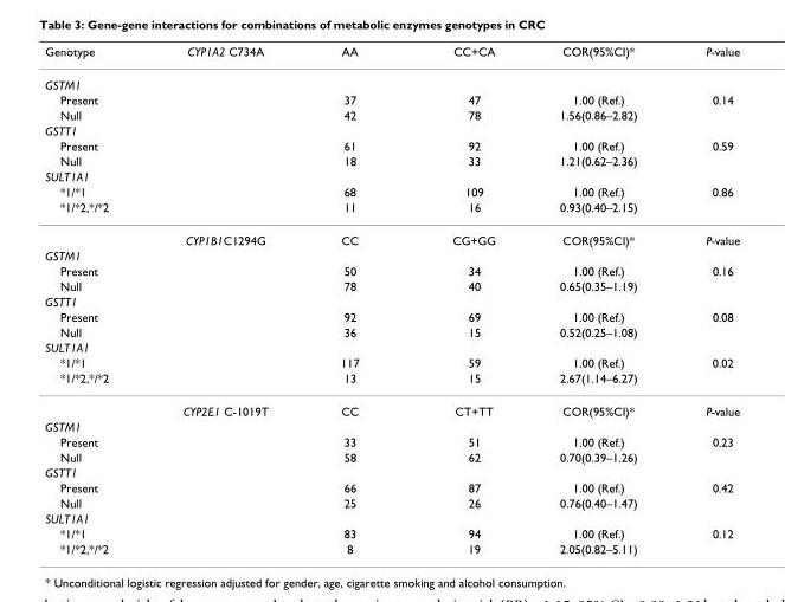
<table><thead><tr><td>Genotype</td><td>CYP1A2 C734A</td><td>AA</td><td>CC+CA</td><td>COR(95%CI)*</td><td>P-value</td></tr></thead><tbody><tr><td colspan="6">GSTM1</td></tr><tr><td>Present</td><td></td><td>37</td><td>47</td><td>1.00 (Ref.)</td><td>0.14</td></tr><tr><td>Null</td><td></td><td>42</td><td>78</td><td>1.56(0.86–2.82)</td><td></td></tr><tr><td colspan="6">GSTT1</td></tr><tr><td>Present</td><td></td><td>61</td><td>92</td><td>1.00 (Ref.)</td><td>0.59</td></tr><tr><td>Null</td><td></td><td>18</td><td>33</td><td>1.21(0.62–2.36)</td><td></td></tr><tr><td colspan="6">SULT1A1</td></tr><tr><td>*1/*1</td><td></td><td>68</td><td>109</td><td>1.00 (Ref.)</td><td>0.86</td></tr><tr><td rowspan="2">*1/*2,*/*2</td><td></td><td>11</td><td>16</td><td>0.93(0.40–2.15)</td><td></td></tr><tr><td>CYP1B1C1294G</td><td>CC</td><td>CG+GG</td><td>COR(95%CI)*</td><td>P-value</td></tr><tr><td colspan="6">GSTM1</td></tr><tr><td>Present</td><td></td><td>50</td><td>34</td><td>1.00 (Ref.)</td><td>0.16</td></tr><tr><td>Null</td><td></td><td>78</td><td>40</td><td>0.65(0.35–1.19)</td><td></td></tr><tr><td colspan="6">GSTT1</td></tr><tr><td>Present</td><td></td><td>92</td><td>69</td><td>1.00 (Ref.)</td><td>0.08</td></tr><tr><td>Null</td><td></td><td>36</td><td>15</td><td>0.52(0.25–1.08)</td><td></td></tr><tr><td colspan="6">SULT1A1</td></tr><tr><td>*1/*1</td><td></td><td>117</td><td>59</td><td>1.00 (Ref.)</td><td>0.02</td></tr><tr><td rowspan="2">*1/*2,*/*2</td><td></td><td>13</td><td>15</td><td>2.67(1.14–6.27)</td><td></td></tr><tr><td>CYP2E1 C-1019T</td><td>CC</td><td>CT+TT</td><td>COR(95%CI)*</td><td>P-value</td></tr><tr><td colspan="6">GSTM1</td></tr><tr><td>Present</td><td></td><td>33</td><td>51</td><td>1.00 (Ref.)</td><td>0.23</td></tr><tr><td>Null</td><td></td><td>58</td><td>62</td><td>0.70(0.39–1.26)</td><td></td></tr><tr><td colspan="6">GSTT1</td></tr><tr><td>Present</td><td></td><td>66</td><td>87</td><td>1.00 (Ref.)</td><td>0.42</td></tr><tr><td>Null</td><td></td><td>25</td><td>26</td><td>0.76(0.40–1.47)</td><td></td></tr><tr><td colspan="6">SULT1A1</td></tr><tr><td>*1/*1</td><td></td><td>83</td><td>94</td><td>1.00 (Ref.)</td><td>0.12</td></tr><tr><td>*1/*2,*/*2</td><td></td><td>8</td><td>19</td><td>2.05(0.82–5.11)</td><td></td></tr></tbody></table>